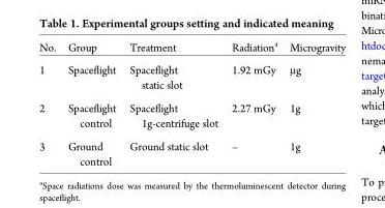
<table><thead><tr><td>No.</td><td>Group</td><td>Treatment</td><td>Radiation<sup>a</sup></td><td>Microgravity</td></tr></thead><tbody><tr><td>1</td><td>Spaceflight</td><td>Spaceflight static slot</td><td>1.92 mGy</td><td>μg</td></tr><tr><td>2</td><td>Spaceflight control</td><td>Spaceflight 1g-centrifuge slot</td><td>2.27 mGy</td><td>1g</td></tr><tr><td>3</td><td>Ground control</td><td>Ground static slot</td><td>–</td><td>1g</td></tr></tbody></table>